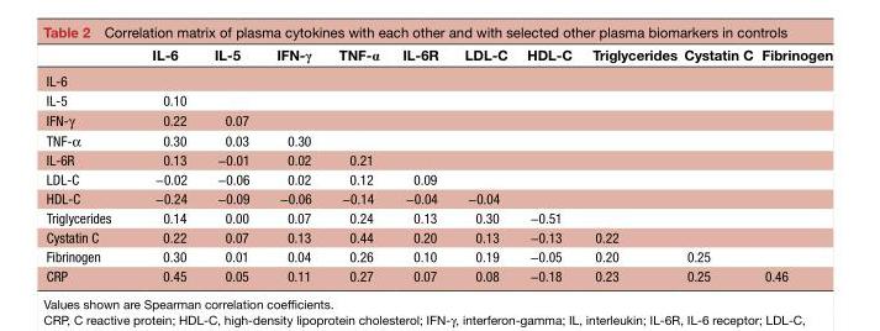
<table><thead><tr><td></td><td>IL-6</td><td>IL-5</td><td>IFN-γ</td><td>TNF-α</td><td>IL-6R</td><td>LDL-C</td><td>HDL-C</td><td>Triglycerides</td><td>Cystatin C</td><td>Fibrinogen</td></tr></thead><tbody><tr><td colspan="11">IL-6</td></tr><tr><td>IL-5</td><td>0.10</td><td></td><td></td><td></td><td></td><td></td><td></td><td></td><td></td><td></td></tr><tr><td>IFN-γ</td><td>0.22</td><td>0.07</td><td></td><td></td><td></td><td></td><td></td><td></td><td></td><td></td></tr><tr><td>TNF-α</td><td>0.30</td><td>0.03</td><td>0.30</td><td></td><td></td><td></td><td></td><td></td><td></td><td></td></tr><tr><td>IL-6R</td><td>0.13</td><td>−0.01</td><td>0.02</td><td>0.21</td><td></td><td></td><td></td><td></td><td></td><td></td></tr><tr><td>LDL-C</td><td>−0.02</td><td>−0.06</td><td>0.02</td><td>0.12</td><td>0.09</td><td></td><td></td><td></td><td></td><td></td></tr><tr><td>HDL-C</td><td>−0.24</td><td>−0.09</td><td>−0.06</td><td>−0.14</td><td>−0.04</td><td>−0.04</td><td></td><td></td><td></td><td></td></tr><tr><td>Triglycerides</td><td>0.14</td><td>0.00</td><td>0.07</td><td>0.24</td><td>0.13</td><td>0.30</td><td>−0.51</td><td></td><td></td><td></td></tr><tr><td>Cystatin C</td><td>0.22</td><td>0.07</td><td>0.13</td><td>0.44</td><td>0.20</td><td>0.13</td><td>−0.13</td><td>0.22</td><td></td><td></td></tr><tr><td>Fibrinogen</td><td>0.30</td><td>0.01</td><td>0.04</td><td>0.26</td><td>0.10</td><td>0.19</td><td>−0.05</td><td>0.20</td><td>0.25</td><td></td></tr><tr><td>CRP</td><td>0.45</td><td>0.05</td><td>0.11</td><td>0.27</td><td>0.07</td><td>0.08</td><td>−0.18</td><td>0.23</td><td>0.25</td><td>0.46</td></tr></tbody></table>